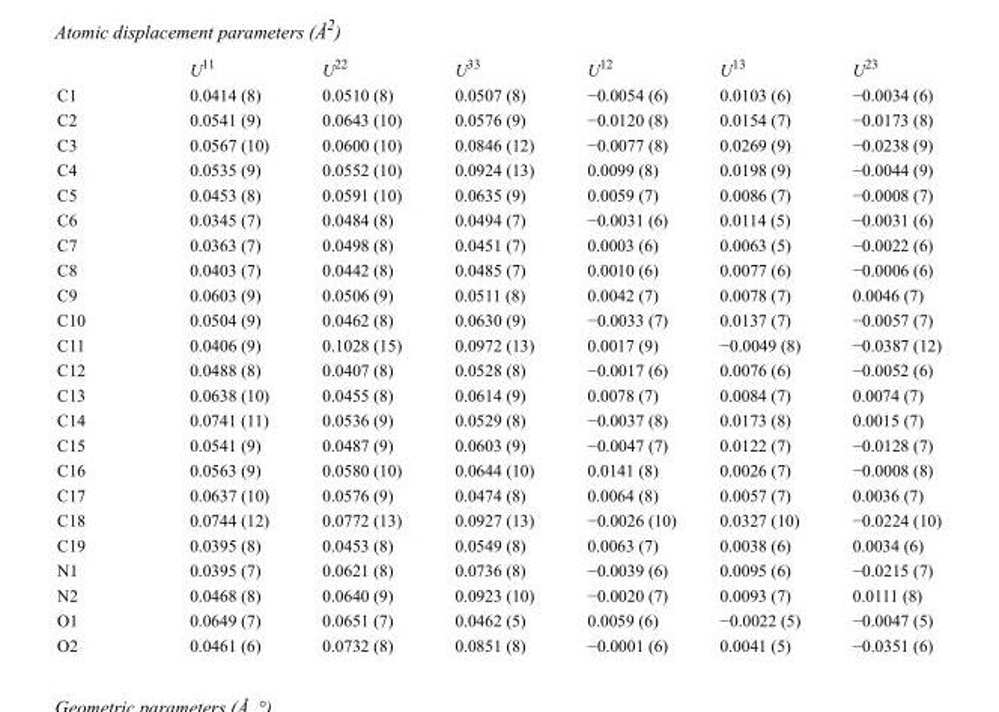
<table><thead><tr><td></td><td>U<sup>11</sup></td><td>U<sup>22</sup></td><td>U<sup>33</sup></td><td>U<sup>12</sup></td><td>U<sup>13</sup></td><td>U<sup>23</sup></td></tr></thead><tbody><tr><td>C1</td><td>0.0414 (8)</td><td>0.0510 (8)</td><td>0.0507 (8)</td><td>−0.0054 (6)</td><td>0.0103 (6)</td><td>−0.0034 (6)</td></tr><tr><td>C2</td><td>0.0541 (9)</td><td>0.0643 (10)</td><td>0.0576 (9)</td><td>−0.0120 (8)</td><td>0.0154 (7)</td><td>−0.0173 (8)</td></tr><tr><td>C3</td><td>0.0567 (10)</td><td>0.0600 (10)</td><td>0.0846 (12)</td><td>−0.0077 (8)</td><td>0.0269 (9)</td><td>−0.0238 (9)</td></tr><tr><td>C4</td><td>0.0535 (9)</td><td>0.0552 (10)</td><td>0.0924 (13)</td><td>0.0099 (8)</td><td>0.0198 (9)</td><td>−0.0044 (9)</td></tr><tr><td>C5</td><td>0.0453 (8)</td><td>0.0591 (10)</td><td>0.0635 (9)</td><td>0.0059 (7)</td><td>0.0086 (7)</td><td>−0.0008 (7)</td></tr><tr><td>C6</td><td>0.0345 (7)</td><td>0.0484 (8)</td><td>0.0494 (7)</td><td>−0.0031 (6)</td><td>0.0114 (5)</td><td>−0.0031 (6)</td></tr><tr><td>C7</td><td>0.0363 (7)</td><td>0.0498 (8)</td><td>0.0451 (7)</td><td>0.0003 (6)</td><td>0.0063 (5)</td><td>−0.0022 (6)</td></tr><tr><td>C8</td><td>0.0403 (7)</td><td>0.0442 (8)</td><td>0.0485 (7)</td><td>0.0010 (6)</td><td>0.0077 (6)</td><td>−0.0006 (6)</td></tr><tr><td>C9</td><td>0.0603 (9)</td><td>0.0506 (9)</td><td>0.0511 (8)</td><td>0.0042 (7)</td><td>0.0078 (7)</td><td>0.0046 (7)</td></tr><tr><td>C10</td><td>0.0504 (9)</td><td>0.0462 (8)</td><td>0.0630 (9)</td><td>−0.0033 (7)</td><td>0.0137 (7)</td><td>−0.0057 (7)</td></tr><tr><td>C11</td><td>0.0406 (9)</td><td>0.1028 (15)</td><td>0.0972 (13)</td><td>0.0017 (9)</td><td>−0.0049 (8)</td><td>−0.0387 (12)</td></tr><tr><td>C12</td><td>0.0488 (8)</td><td>0.0407 (8)</td><td>0.0528 (8)</td><td>−0.0017 (6)</td><td>0.0076 (6)</td><td>−0.0052 (6)</td></tr><tr><td>C13</td><td>0.0638 (10)</td><td>0.0455 (8)</td><td>0.0614 (9)</td><td>0.0078 (7)</td><td>0.0084 (7)</td><td>0.0074 (7)</td></tr><tr><td>C14</td><td>0.0741 (11)</td><td>0.0536 (9)</td><td>0.0529 (8)</td><td>−0.0037 (8)</td><td>0.0173 (8)</td><td>0.0015 (7)</td></tr><tr><td>C15</td><td>0.0541 (9)</td><td>0.0487 (9)</td><td>0.0603 (9)</td><td>−0.0047 (7)</td><td>0.0122 (7)</td><td>−0.0128 (7)</td></tr><tr><td>C16</td><td>0.0563 (9)</td><td>0.0580 (10)</td><td>0.0644 (10)</td><td>0.0141 (8)</td><td>0.0026 (7)</td><td>−0.0008 (8)</td></tr><tr><td>C17</td><td>0.0637 (10)</td><td>0.0576 (9)</td><td>0.0474 (8)</td><td>0.0064 (8)</td><td>0.0057 (7)</td><td>0.0036 (7)</td></tr><tr><td>C18</td><td>0.0744 (12)</td><td>0.0772 (13)</td><td>0.0927 (13)</td><td>−0.0026 (10)</td><td>0.0327 (10)</td><td>−0.0224 (10)</td></tr><tr><td>C19</td><td>0.0395 (8)</td><td>0.0453 (8)</td><td>0.0549 (8)</td><td>0.0063 (7)</td><td>0.0038 (6)</td><td>0.0034 (6)</td></tr><tr><td>N1</td><td>0.0395 (7)</td><td>0.0621 (8)</td><td>0.0736 (8)</td><td>−0.0039 (6)</td><td>0.0095 (6)</td><td>−0.0215 (7)</td></tr><tr><td>N2</td><td>0.0468 (8)</td><td>0.0640 (9)</td><td>0.0923 (10)</td><td>−0.0020 (7)</td><td>0.0093 (7)</td><td>0.0111 (8)</td></tr><tr><td>O1</td><td>0.0649 (7)</td><td>0.0651 (7)</td><td>0.0462 (5)</td><td>0.0059 (6)</td><td>−0.0022 (5)</td><td>−0.0047 (5)</td></tr><tr><td>O2</td><td>0.0461 (6)</td><td>0.0732 (8)</td><td>0.0851 (8)</td><td>−0.0001 (6)</td><td>0.0041 (5)</td><td>−0.0351 (6)</td></tr></tbody></table>